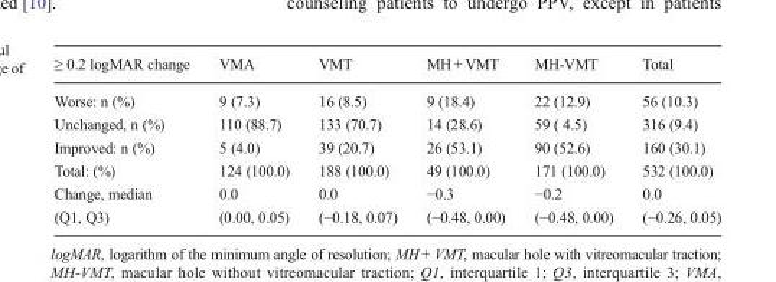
<table><thead><tr><td>≥ 0.2 logMAR change</td><td>VMA</td><td>VMT</td><td>MH + VMT</td><td>MH-VMT</td><td>Total</td></tr></thead><tbody><tr><td>Worse: n (%)</td><td>9 (7.3)</td><td>16 (8.5)</td><td>9 (18.4)</td><td>22 (12.9)</td><td>56 (10.3)</td></tr><tr><td>Unchanged, n (%)</td><td>110 (88.7)</td><td>133 (70.7)</td><td>14 (28.6)</td><td>59 ( 4.5)</td><td>316 (9.4)</td></tr><tr><td>Improved: n (%)</td><td>5 (4.0)</td><td>39 (20.7)</td><td>26 (53.1)</td><td>90 (52.6)</td><td>160 (30.1)</td></tr><tr><td>Total: (%)</td><td>124 (100.0)</td><td>188 (100.0)</td><td>49 (100.0)</td><td>171 (100.0)</td><td>532 (100.0)</td></tr><tr><td>Change, median (Q1, Q3)</td><td>0.0 (0.00, 0.05)</td><td>0.0 (−0.18, 0.07)</td><td>−0.3 (−0.48, 0.00)</td><td>−0.2 (−0.48, 0.00)</td><td>0.0 (−0.26, 0.05)</td></tr></tbody></table>